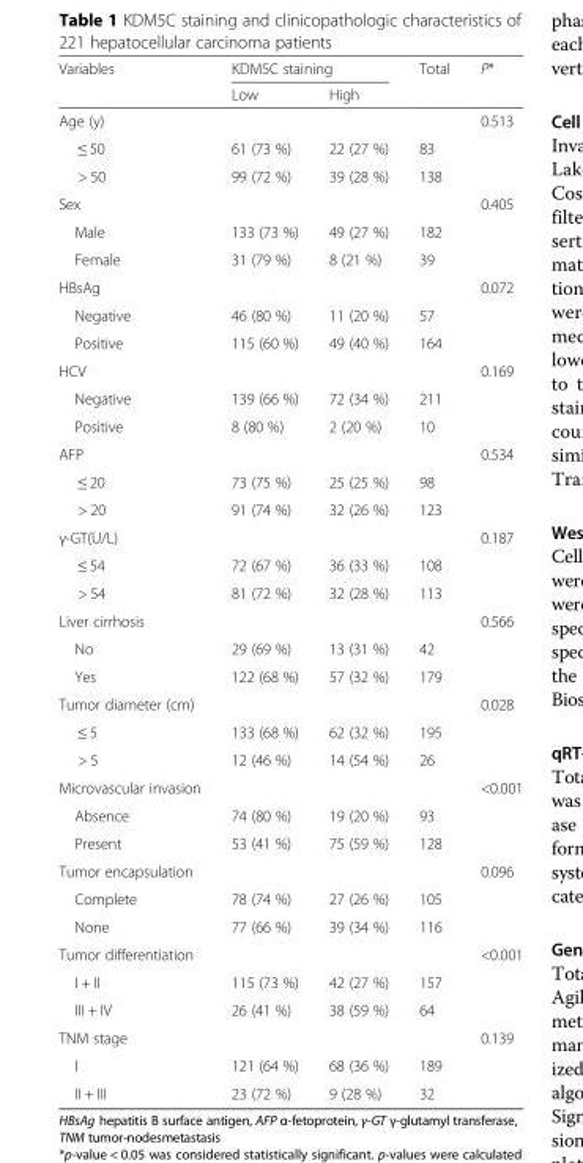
<table><thead><tr><td rowspan="2">Variables</td><td colspan="2">KDM5C staining</td><td rowspan="2">Total</td><td rowspan="2">P*</td></tr><tr><td>Low</td><td>High</td></tr></thead><tbody><tr><td colspan="4">Age (y)</td><td rowspan="3">0.513</td></tr><tr><td>≤ 50</td><td>61 (73 %)</td><td>22 (27 %)</td><td>83</td></tr><tr><td>&gt; 50</td><td>99 (72 %)</td><td>39 (28 %)</td><td>138</td></tr><tr><td colspan="4">Sex</td><td rowspan="3">0.405</td></tr><tr><td>Male</td><td>133 (73 %)</td><td>49 (27 %)</td><td>182</td></tr><tr><td>Female</td><td>31 (79 %)</td><td>8 (21 %)</td><td>39</td></tr><tr><td colspan="4">HBsAg</td><td rowspan="3">0.072</td></tr><tr><td>Negative</td><td>46 (80 %)</td><td>11 (20 %)</td><td>57</td></tr><tr><td>Positive</td><td>115 (60 %)</td><td>49 (40 %)</td><td>164</td></tr><tr><td colspan="4">HCV</td><td rowspan="3">0.169</td></tr><tr><td>Negative</td><td>139 (66 %)</td><td>72 (34 %)</td><td>211</td></tr><tr><td>Positive</td><td>8 (80 %)</td><td>2 (20 %)</td><td>10</td></tr><tr><td colspan="4">AFP</td><td rowspan="3">0.534</td></tr><tr><td>≤ 20</td><td>73 (75 %)</td><td>25 (25 %)</td><td>98</td></tr><tr><td>&gt; 20</td><td>91 (74 %)</td><td>32 (26 %)</td><td>123</td></tr><tr><td colspan="4">γ-GT(U/L)</td><td rowspan="3">0.187</td></tr><tr><td>≤ 54</td><td>72 (67 %)</td><td>36 (33 %)</td><td>108</td></tr><tr><td>&gt; 54</td><td>81 (72 %)</td><td>32 (28 %)</td><td>113</td></tr><tr><td colspan="4">Liver cirrhosis</td><td rowspan="3">0.566</td></tr><tr><td>No</td><td>29 (69 %)</td><td>13 (31 %)</td><td>42</td></tr><tr><td>Yes</td><td>122 (68 %)</td><td>57 (32 %)</td><td>179</td></tr><tr><td colspan="4">Tumor diameter (cm)</td><td rowspan="3">0.028</td></tr><tr><td>≤ 5</td><td>133 (68 %)</td><td>62 (32 %)</td><td>195</td></tr><tr><td>&gt; 5</td><td>12 (46 %)</td><td>14 (54 %)</td><td>26</td></tr><tr><td colspan="4">Microvascular invasion</td><td rowspan="3">&lt;0.001</td></tr><tr><td>Absence</td><td>74 (80 %)</td><td>19 (20 %)</td><td>93</td></tr><tr><td>Present</td><td>53 (41 %)</td><td>75 (59 %)</td><td>128</td></tr><tr><td colspan="4">Tumor encapsulation</td><td rowspan="3">0.096</td></tr><tr><td>Complete</td><td>78 (74 %)</td><td>27 (26 %)</td><td>105</td></tr><tr><td>None</td><td>77 (66 %)</td><td>39 (34 %)</td><td>116</td></tr><tr><td colspan="4">Tumor differentiation</td><td rowspan="3">&lt;0.001</td></tr><tr><td>I + II</td><td>115 (73 %)</td><td>42 (27 %)</td><td>157</td></tr><tr><td>III + IV</td><td>26 (41 %)</td><td>38 (59 %)</td><td>64</td></tr><tr><td colspan="4">TNM stage</td><td rowspan="3">0.139</td></tr><tr><td>I</td><td>121 (64 %)</td><td>68 (36 %)</td><td>189</td></tr><tr><td>II + III</td><td>23 (72 %)</td><td>9 (28 %)</td><td>32</td></tr></tbody></table>